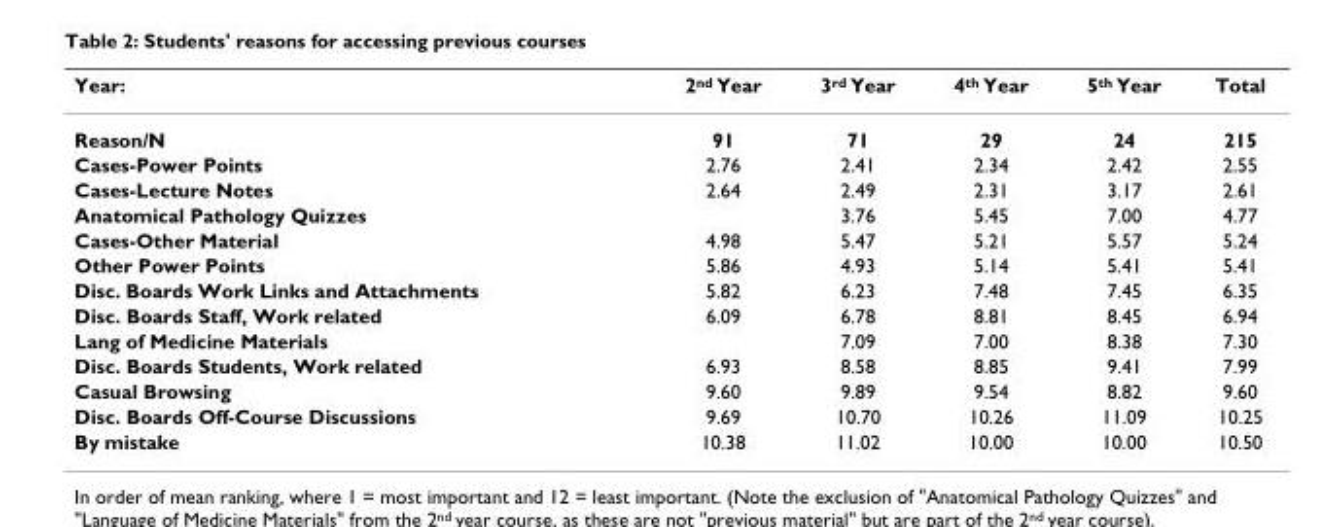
<table><thead><tr><td>Year:</td><td>2<sup>nd</sup> Year</td><td>3<sup>rd</sup> Year</td><td>4<sup>th</sup> Year</td><td>5<sup>th</sup> Year</td><td>Total</td></tr></thead><tbody><tr><td>Reason/N</td><td>91</td><td>71</td><td>29</td><td>24</td><td>215</td></tr><tr><td>Cases-Power Points</td><td>2.76</td><td>2.41</td><td>2.34</td><td>2.42</td><td>2.55</td></tr><tr><td>Cases-Lecture Notes</td><td>2.64</td><td>2.49</td><td>2.31</td><td>3.17</td><td>2.61</td></tr><tr><td>Anatomical Pathology Quizzes</td><td></td><td>3.76</td><td>5.45</td><td>7.00</td><td>4.77</td></tr><tr><td>Cases-Other Material</td><td>4.98</td><td>5.47</td><td>5.21</td><td>5.57</td><td>5.24</td></tr><tr><td>Other Power Points</td><td>5.86</td><td>4.93</td><td>5.14</td><td>5.41</td><td>5.41</td></tr><tr><td>Disc. Boards Work Links and Attachments</td><td>5.82</td><td>6.23</td><td>7.48</td><td>7.45</td><td>6.35</td></tr><tr><td>Disc. Boards Staff, Work related</td><td>6.09</td><td>6.78</td><td>8.81</td><td>8.45</td><td>6.94</td></tr><tr><td>Lang of Medicine Materials</td><td></td><td>7.09</td><td>7.00</td><td>8.38</td><td>7.30</td></tr><tr><td>Disc. Boards Students, Work related</td><td>6.93</td><td>8.58</td><td>8.85</td><td>9.41</td><td>7.99</td></tr><tr><td>Casual Browsing</td><td>9.60</td><td>9.89</td><td>9.54</td><td>8.82</td><td>9.60</td></tr><tr><td>Disc. Boards Off-Course Discussions</td><td>9.69</td><td>10.70</td><td>10.26</td><td>11.09</td><td>10.25</td></tr><tr><td>By mistake</td><td>10.38</td><td>11.02</td><td>10.00</td><td>10.00</td><td>10.50</td></tr></tbody></table>